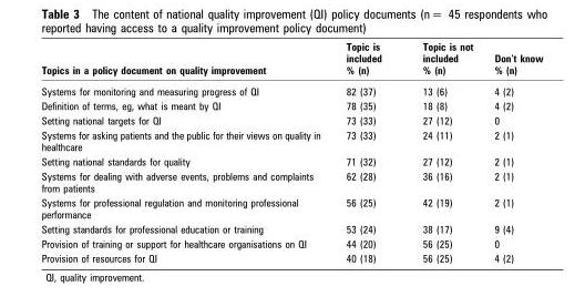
<table><thead><tr><td>Topics in a policy document on quality improvement</td><td>Topic is included % (n)</td><td>Topic is not included % (n)</td><td>Don’t know % (n)</td></tr></thead><tbody><tr><td>Systems for monitoring and measuring progress of QI</td><td>82 (37)</td><td>13 (6)</td><td>4 (2)</td></tr><tr><td>Definition of terms, eg, what is meant by QI</td><td>78 (35)</td><td>18 (8)</td><td>4 (2)</td></tr><tr><td>Setting national targets for QI</td><td>73 (33)</td><td>27 (12)</td><td>0</td></tr><tr><td>Systems for asking patients and the public for their views on quality in healthcare</td><td>73 (33)</td><td>24 (11)</td><td>2 (1)</td></tr><tr><td>Setting national standards for quality</td><td>71 (32)</td><td>27 (12)</td><td>2 (1)</td></tr><tr><td>Systems for dealing with adverse events, problems and complaints from patients</td><td>62 (28)</td><td>36 (16)</td><td>2 (1)</td></tr><tr><td>Systems for professional regulation and monitoring professional performance</td><td>56 (25)</td><td>42 (19)</td><td>2 (1)</td></tr><tr><td>Setting standards for professional education or training</td><td>53 (24)</td><td>38 (17)</td><td>9 (4)</td></tr><tr><td>Provision of training or support for healthcare organisations on QI</td><td>44 (20)</td><td>56 (25)</td><td>0</td></tr><tr><td>Provision of resources for QI</td><td>40 (18)</td><td>56 (25)</td><td>4 (2)</td></tr></tbody></table>